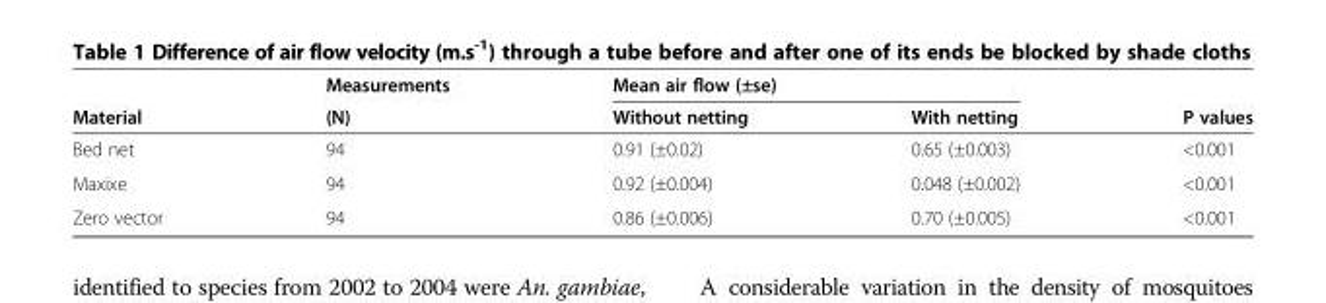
<table><thead><tr><td rowspan="2">Material</td><td rowspan="2">Measurements (N)</td><td colspan="2">Mean air flow (±se)</td><td rowspan="2">P values</td></tr><tr><td>Without netting</td><td>With netting</td></tr></thead><tbody><tr><td>Bed net</td><td>94</td><td>0.91 (±0.02)</td><td>0.65 (±0.003)</td><td>&lt;0.001</td></tr><tr><td>Maxixe</td><td>94</td><td>0.92 (±0.004)</td><td>0.048 (±0.002)</td><td>&lt;0.001</td></tr><tr><td>Zero vector</td><td>94</td><td>0.86 (±0.006)</td><td>0.70 (±0.005)</td><td>&lt;0.001</td></tr></tbody></table>